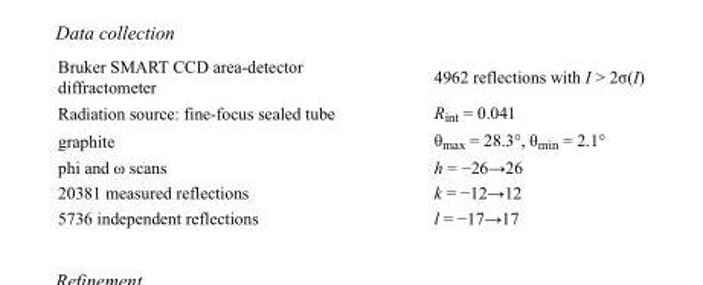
<table><tbody><tr><td>Bruker SMART CCD area-detector diffractometer</td><td>4962 reflections with I &gt; 2σ(I)</td></tr><tr><td>Radiation source: fine-focus sealed tube</td><td>R<sub>int</sub> = 0.041</td></tr><tr><td>graphite</td><td>θ<sub>max</sub> = 28.3°, θ<sub>min</sub> = 2.1°</td></tr><tr><td>phi and ω scans</td><td>h = −26→26</td></tr><tr><td>20381 measured reflections</td><td>k = −12→12</td></tr><tr><td>5736 independent reflections</td><td>l = −17→17</td></tr></tbody></table>